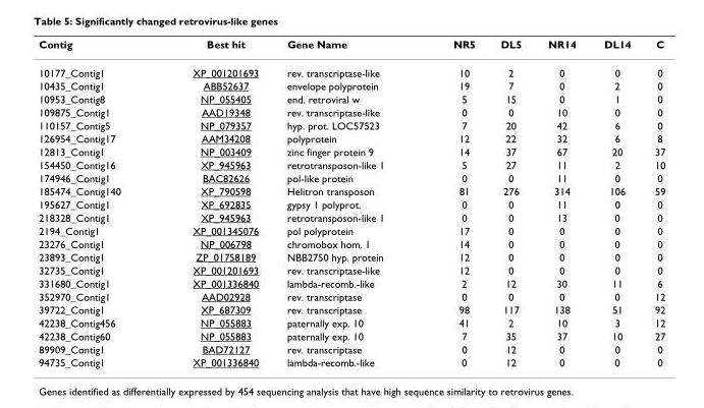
<table><thead><tr><td>Contig</td><td>Best hit</td><td>Gene Name</td><td>NR5</td><td>DL5</td><td>NR14</td><td>DL14</td><td>C</td></tr></thead><tbody><tr><td>10177_Contig1</td><td>XP_001201693</td><td>rev. transcriptase-like</td><td>10</td><td>2</td><td>0</td><td>0</td><td>0</td></tr><tr><td>10435_Contig1</td><td>ABB52637</td><td>envelope polyprotein</td><td>19</td><td>7</td><td>0</td><td>2</td><td>0</td></tr><tr><td>10953_Contig8</td><td>NP_055405</td><td>end. retroviral w</td><td>5</td><td>15</td><td>0</td><td>1</td><td>0</td></tr><tr><td>109875_Contig1</td><td>AAD19348</td><td>rev. transcriptase-like</td><td>0</td><td>0</td><td>10</td><td>0</td><td>0</td></tr><tr><td>110157_Contig5</td><td>NP_079357</td><td>hyp. prot. LOC57523</td><td>7</td><td>20</td><td>42</td><td>6</td><td>0</td></tr><tr><td>126954_Contig17</td><td>AAM34208</td><td>polyprotein</td><td>12</td><td>22</td><td>32</td><td>6</td><td>8</td></tr><tr><td>12813_Contig1</td><td>NP_003409</td><td>zinc finger protein 9</td><td>14</td><td>37</td><td>67</td><td>20</td><td>37</td></tr><tr><td>154450_Contig16</td><td>XP_945963</td><td>retrotransposon-like 1</td><td>5</td><td>27</td><td>11</td><td>2</td><td>10</td></tr><tr><td>174946_Contig1</td><td>BAC82626</td><td>pol-like protein</td><td>0</td><td>0</td><td>11</td><td>0</td><td>0</td></tr><tr><td>185474_Contig140</td><td>XP_790598</td><td>Helitron transposon</td><td>81</td><td>276</td><td>314</td><td>106</td><td>59</td></tr><tr><td>195627_Contig1</td><td>XP_692835</td><td>gypsy 1 polyprot.</td><td>0</td><td>0</td><td>11</td><td>0</td><td>0</td></tr><tr><td>218328_Contig1</td><td>XP_945963</td><td>retrotransposon-like 1</td><td>0</td><td>0</td><td>13</td><td>0</td><td>0</td></tr><tr><td>2194_Contig1</td><td>XP_001345076</td><td>pol polyprotein</td><td>17</td><td>0</td><td>0</td><td>0</td><td>0</td></tr><tr><td>23276_Contig1</td><td>NP_006798</td><td>chromobox hom. 1</td><td>14</td><td>0</td><td>0</td><td>0</td><td>0</td></tr><tr><td>23893_Contig1</td><td>ZP_01758189</td><td>NBB2750 hyp. protein</td><td>12</td><td>0</td><td>0</td><td>0</td><td>0</td></tr><tr><td>32735_Contig1</td><td>XP_001201693</td><td>rev. transcriptase-like</td><td>12</td><td>0</td><td>0</td><td>0</td><td>0</td></tr><tr><td>331680_Contig1</td><td>XP_001336840</td><td>lambda-recomb.-like</td><td>2</td><td>12</td><td>30</td><td>11</td><td>6</td></tr><tr><td>352970_Contig1</td><td>AAD02928</td><td>rev. transcriptase</td><td>0</td><td>0</td><td>0</td><td>0</td><td>12</td></tr><tr><td>39722_Contig1</td><td>XP_687309</td><td>rev. transcriptase</td><td>98</td><td>117</td><td>138</td><td>51</td><td>92</td></tr><tr><td>42238_Contig456</td><td>NP_055883</td><td>paternally exp. 10</td><td>41</td><td>2</td><td>10</td><td>3</td><td>12</td></tr><tr><td>42238_Contig60</td><td>NP_055883</td><td>paternally exp. 10</td><td>7</td><td>35</td><td>37</td><td>10</td><td>27</td></tr><tr><td>89909_Contig1</td><td>BAD72127</td><td>rev. transcriptase</td><td>0</td><td>12</td><td>0</td><td>0</td><td>0</td></tr><tr><td>94735_Contig1</td><td>XP_001336840</td><td>lambda-recomb.-like</td><td>0</td><td>12</td><td>0</td><td>0</td><td>0</td></tr></tbody></table>